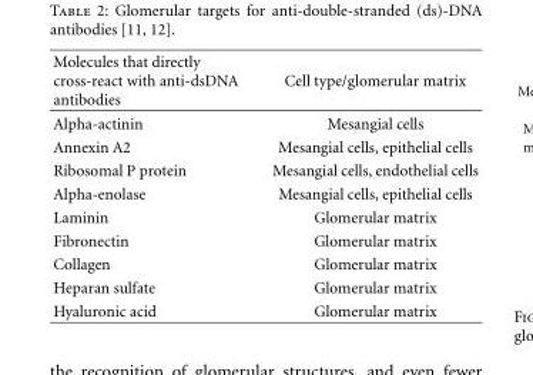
<table><thead><tr><td>Molecules that directly cross-react with anti-dsDNA antibodies</td><td>Cell type/glomerular matrix</td></tr></thead><tbody><tr><td>Alpha-actinin</td><td>Mesangial cells</td></tr><tr><td>Annexin A2</td><td>Mesangial cells, epithelial cells</td></tr><tr><td>Ribosomal P protein</td><td>Mesangial cells, endothelial cells</td></tr><tr><td>Alpha-enolase</td><td>Mesangial cells, epithelial cells</td></tr><tr><td>Laminin</td><td>Glomerular matrix</td></tr><tr><td>Fibronectin</td><td>Glomerular matrix</td></tr><tr><td>Collagen</td><td>Glomerular matrix</td></tr><tr><td>Heparan sulfate</td><td>Glomerular matrix</td></tr><tr><td>Hyaluronic acid</td><td>Glomerular matrix</td></tr></tbody></table>